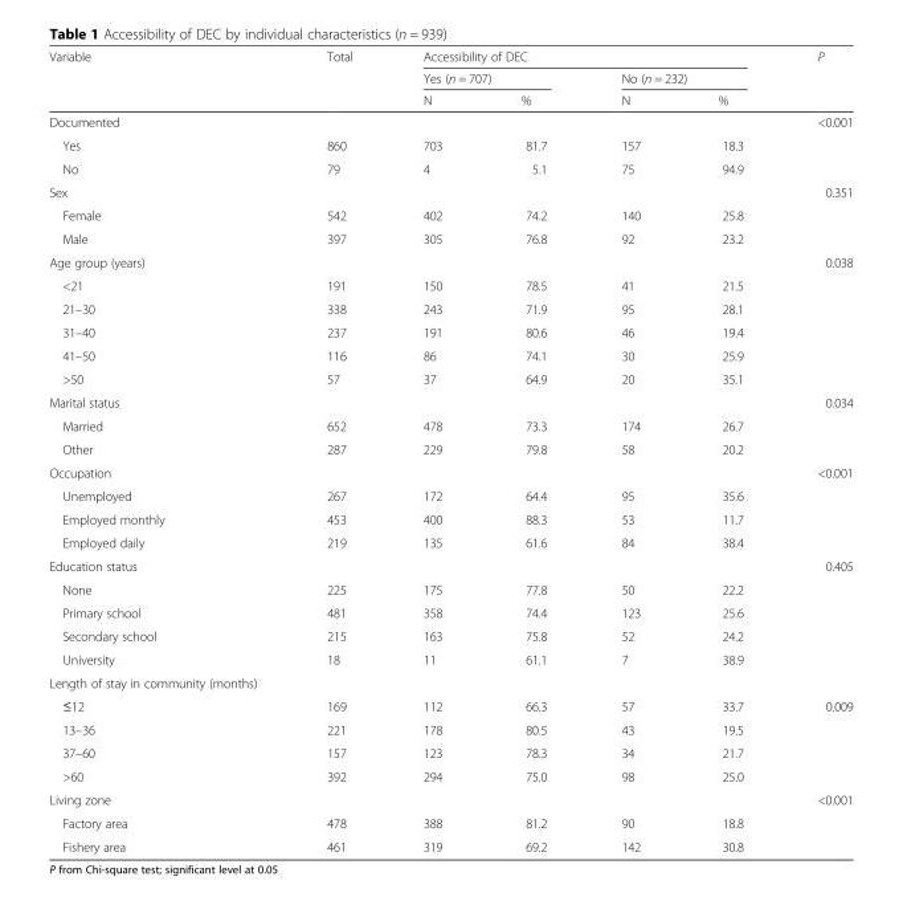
<table><thead><tr><td rowspan="3">Variable</td><td rowspan="3">Total</td><td colspan="4">Accessibility of DEC</td><td rowspan="3">P</td></tr><tr><td colspan="2">Yes (n = 707)</td><td colspan="2">No (n = 232)</td></tr><tr><td>N</td><td>%</td><td>N</td><td>%</td></tr></thead><tbody><tr><td>Documented</td><td></td><td></td><td></td><td></td><td></td><td>&lt;0.001</td></tr><tr><td>Yes</td><td>860</td><td>703</td><td>81.7</td><td>157</td><td>18.3</td><td></td></tr><tr><td>No</td><td>79</td><td>4</td><td>5.1</td><td>75</td><td>94.9</td><td></td></tr><tr><td>Sex</td><td></td><td colspan="2"></td><td></td><td></td><td>0.351</td></tr><tr><td>Female</td><td>542</td><td>402</td><td>74.2</td><td>140</td><td>25.8</td><td></td></tr><tr><td>Male</td><td>397</td><td>305</td><td>76.8</td><td>92</td><td>23.2</td><td></td></tr><tr><td>Age group (years)</td><td></td><td></td><td></td><td></td><td></td><td>0.038</td></tr><tr><td>&lt;21</td><td>191</td><td>150</td><td>78.5</td><td>41</td><td>21.5</td><td></td></tr><tr><td>21–30</td><td>338</td><td>243</td><td>71.9</td><td>95</td><td>28.1</td><td></td></tr><tr><td>31–40</td><td>237</td><td>191</td><td>80.6</td><td>46</td><td>19.4</td><td></td></tr><tr><td>41–50</td><td>116</td><td>86</td><td>74.1</td><td>30</td><td>25.9</td><td></td></tr><tr><td>&gt;50</td><td>57</td><td>37</td><td>64.9</td><td>20</td><td>35.1</td><td></td></tr><tr><td>Marital status</td><td></td><td></td><td></td><td></td><td></td><td>0.034</td></tr><tr><td>Married</td><td>652</td><td>478</td><td>73.3</td><td>174</td><td>26.7</td><td></td></tr><tr><td>Other</td><td>287</td><td>229</td><td>79.8</td><td>58</td><td>20.2</td><td></td></tr><tr><td>Occupation</td><td></td><td></td><td></td><td></td><td></td><td>&lt;0.001</td></tr><tr><td>Unemployed</td><td>267</td><td>172</td><td>64.4</td><td>95</td><td>35.6</td><td></td></tr><tr><td>Employed monthly</td><td>453</td><td>400</td><td>88.3</td><td>53</td><td>11.7</td><td></td></tr><tr><td>Employed daily</td><td>219</td><td>135</td><td>61.6</td><td>84</td><td>38.4</td><td></td></tr><tr><td>Education status</td><td></td><td></td><td></td><td></td><td></td><td>0.405</td></tr><tr><td>None</td><td>225</td><td>175</td><td>77.8</td><td>50</td><td>22.2</td><td></td></tr><tr><td>Primary school</td><td>481</td><td>358</td><td>74.4</td><td>123</td><td>25.6</td><td></td></tr><tr><td>Secondary school</td><td>215</td><td>163</td><td>75.8</td><td>52</td><td>24.2</td><td></td></tr><tr><td>University</td><td>18</td><td>11</td><td>61.1</td><td>7</td><td>38.9</td><td></td></tr><tr><td colspan="7">Length of stay in community (months)</td></tr><tr><td>≤12</td><td>169</td><td>112</td><td>66.3</td><td>57</td><td>33.7</td><td>0.009</td></tr><tr><td>13–36</td><td>221</td><td>178</td><td>80.5</td><td>43</td><td>19.5</td><td></td></tr><tr><td>37–60</td><td>157</td><td>123</td><td>78.3</td><td>34</td><td>21.7</td><td></td></tr><tr><td>&gt;60</td><td>392</td><td>294</td><td>75.0</td><td>98</td><td>25.0</td><td></td></tr><tr><td>Living zone</td><td></td><td></td><td></td><td></td><td></td><td>&lt;0.001</td></tr><tr><td>Factory area</td><td>478</td><td>388</td><td>81.2</td><td>90</td><td>18.8</td><td></td></tr><tr><td>Fishery area</td><td>461</td><td>319</td><td>69.2</td><td>142</td><td>30.8</td><td></td></tr></tbody></table>